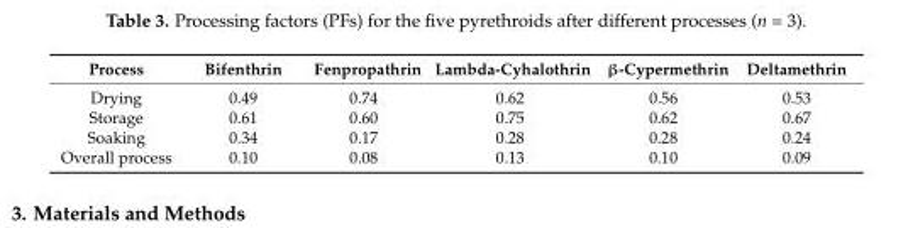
<table><thead><tr><td>Process</td><td>Bifenthrin</td><td>Fenpropathrin</td><td>Lambda-Cyhalothrin</td><td>β-Cypermethrin</td><td>Deltamethrin</td></tr></thead><tbody><tr><td>Drying</td><td>0.49</td><td>0.74</td><td>0.62</td><td>0.56</td><td>0.53</td></tr><tr><td>Storage</td><td>0.61</td><td>0.60</td><td>0.75</td><td>0.62</td><td>0.67</td></tr><tr><td>Soaking</td><td>0.34</td><td>0.17</td><td>0.28</td><td>0.28</td><td>0.24</td></tr><tr><td>Overall process</td><td>0.10</td><td>0.08</td><td>0.13</td><td>0.10</td><td>0.09</td></tr></tbody></table>